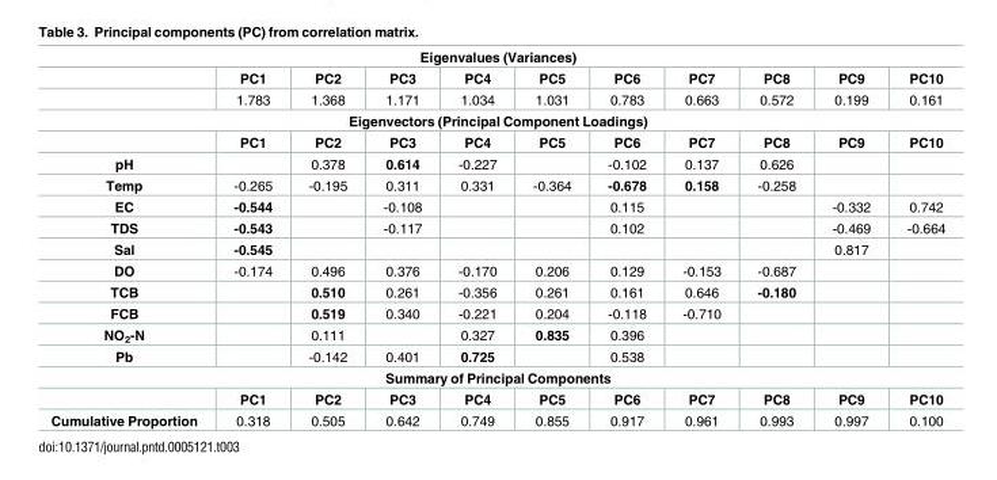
<table><tbody><tr><td colspan="11">Eigenvalues (Variances)</td></tr><tr><td></td><td>PC1</td><td>PC2</td><td>PC3</td><td>PC4</td><td>PC5</td><td>PC6</td><td>PC7</td><td>PC8</td><td>PC9</td><td>PC10</td></tr><tr><td></td><td>1.783</td><td>1.368</td><td>1.171</td><td>1.034</td><td>1.031</td><td>0.783</td><td>0.663</td><td>0.572</td><td>0.199</td><td>0.161</td></tr><tr><td colspan="11">Eigenvectors (Principal Component Loadings)</td></tr><tr><td></td><td>PC1</td><td>PC2</td><td>PC3</td><td>PC4</td><td>PC5</td><td>PC6</td><td>PC7</td><td>PC8</td><td>PC9</td><td>PC10</td></tr><tr><td>pH</td><td></td><td>0.378</td><td>0.614</td><td>-0.227</td><td></td><td>-0.102</td><td>0.137</td><td>0.626</td><td></td><td></td></tr><tr><td>Temp</td><td>-0.265</td><td>-0.195</td><td>0.311</td><td>0.331</td><td>-0.364</td><td>-0.678</td><td>0.158</td><td>-0.258</td><td></td><td></td></tr><tr><td>EC</td><td>-0.544</td><td></td><td>-0.108</td><td></td><td></td><td>0.115</td><td></td><td></td><td>-0.332</td><td>0.742</td></tr><tr><td>TDS</td><td>-0.543</td><td></td><td>-0.117</td><td></td><td></td><td>0.102</td><td></td><td></td><td>-0.469</td><td>-0.664</td></tr><tr><td>Sal</td><td>-0.545</td><td></td><td></td><td></td><td></td><td></td><td></td><td></td><td>0.817</td><td></td></tr><tr><td>DO</td><td>-0.174</td><td>0.496</td><td>0.376</td><td>-0.170</td><td>0.206</td><td>0.129</td><td>-0.153</td><td>-0.687</td><td></td><td></td></tr><tr><td>TCB</td><td></td><td>0.510</td><td>0.261</td><td>-0.356</td><td>0.261</td><td>0.161</td><td>0.646</td><td>-0.180</td><td></td><td></td></tr><tr><td>FCB</td><td></td><td>0.519</td><td>0.340</td><td>-0.221</td><td>0.204</td><td>-0.118</td><td>-0.710</td><td></td><td></td><td></td></tr><tr><td>NO<sub>2</sub>-N</td><td></td><td>0.111</td><td></td><td>0.327</td><td>0.835</td><td>0.396</td><td></td><td></td><td></td><td></td></tr><tr><td>Pb</td><td></td><td>-0.142</td><td>0.401</td><td>0.725</td><td></td><td>0.538</td><td></td><td></td><td></td><td></td></tr><tr><td colspan="11">Summary of Principal Components</td></tr><tr><td></td><td>PC1</td><td>PC2</td><td>PC3</td><td>PC4</td><td>PC5</td><td>PC6</td><td>PC7</td><td>PC8</td><td>PC9</td><td>PC10</td></tr><tr><td>Cumulative Proportion</td><td>0.318</td><td>0.505</td><td>0.642</td><td>0.749</td><td>0.855</td><td>0.917</td><td>0.961</td><td>0.993</td><td>0.997</td><td>0.100</td></tr></tbody></table>